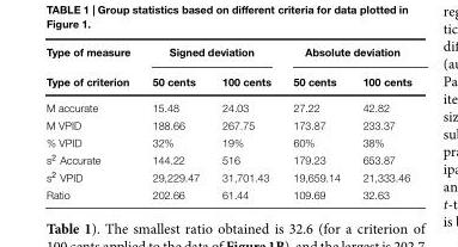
<table><thead><tr><td rowspan="2">Type of measure Type of criterion</td><td colspan="2">Signed deviation</td><td colspan="2">Absolute deviation</td></tr><tr><td>50 cents</td><td>100 cents</td><td>50 cents</td><td>100 cents</td></tr></thead><tbody><tr><td>M accurate</td><td>15.48</td><td>24.03</td><td>27.22</td><td>42.82</td></tr><tr><td>M VPID</td><td>188.66</td><td>267.75</td><td>173.87</td><td>233.37</td></tr><tr><td>% VPID</td><td>32%</td><td>19%</td><td>60%</td><td>38%</td></tr><tr><td>s<sup>2</sup> Accurate</td><td>144.22</td><td>516</td><td>179.23</td><td>653.87</td></tr><tr><td>s<sup>2</sup> VPID</td><td>29,229.47</td><td>31,701.43</td><td>19,659.14</td><td>21,333.46</td></tr><tr><td>Ratio</td><td>202.66</td><td>61.44</td><td>109.69</td><td>32.63</td></tr></tbody></table>